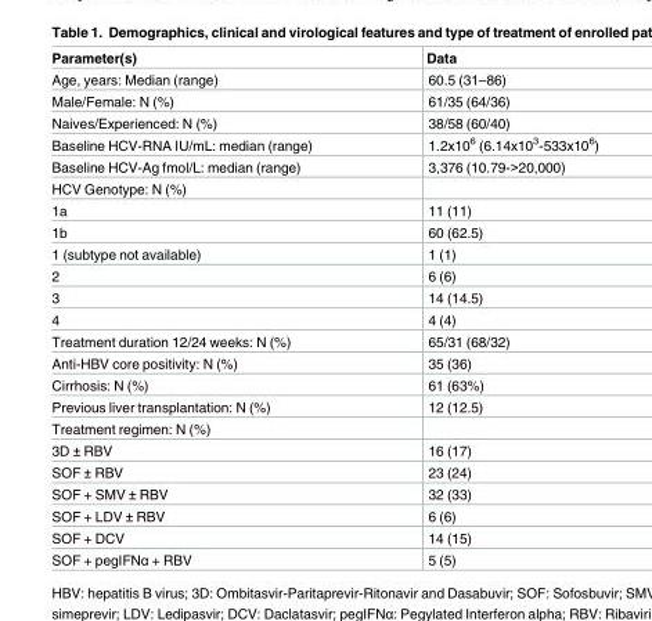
<table><thead><tr><td>Parameter(s)</td><td>Data</td></tr></thead><tbody><tr><td>Age, years: Median (range)</td><td>60.5 (31–86)</td></tr><tr><td>Male/Female: N (%)</td><td>61/35 (64/36)</td></tr><tr><td>Naives/Experienced: N (%)</td><td>38/58 (60/40)</td></tr><tr><td>Baseline HCV-RNA IU/mL: median (range)</td><td>1.2x10<sup>6</sup> (6.14x10<sup>3</sup>-533x10<sup>6</sup>)</td></tr><tr><td>Baseline HCV-Ag fmol/L: median (range)</td><td>3,376 (10.79-&gt;20,000)</td></tr><tr><td colspan="2">HCV Genotype: N (%)</td></tr><tr><td>1a</td><td>11 (11)</td></tr><tr><td>1b</td><td>60 (62.5)</td></tr><tr><td>1 (subtype not available)</td><td>1 (1)</td></tr><tr><td>2</td><td>6 (6)</td></tr><tr><td>3</td><td>14 (14.5)</td></tr><tr><td>4</td><td>4 (4)</td></tr><tr><td>Treatment duration 12/24 weeks: N (%)</td><td>65/31 (68/32)</td></tr><tr><td>Anti-HBV core positivity: N (%)</td><td>35 (36)</td></tr><tr><td>Cirrhosis: N (%)</td><td>61 (63%)</td></tr><tr><td>Previous liver transplantation: N (%)</td><td>12 (12.5)</td></tr><tr><td colspan="2">Treatment regimen: N (%)</td></tr><tr><td>3D ± RBV</td><td>16 (17)</td></tr><tr><td>SOF ± RBV</td><td>23 (24)</td></tr><tr><td>SOF + SMV ± RBV</td><td>32 (33)</td></tr><tr><td>SOF + LDV ± RBV</td><td>6 (6)</td></tr><tr><td>SOF + DCV</td><td>14 (15)</td></tr><tr><td>SOF + pegIFNα + RBV</td><td>5 (5)</td></tr></tbody></table>